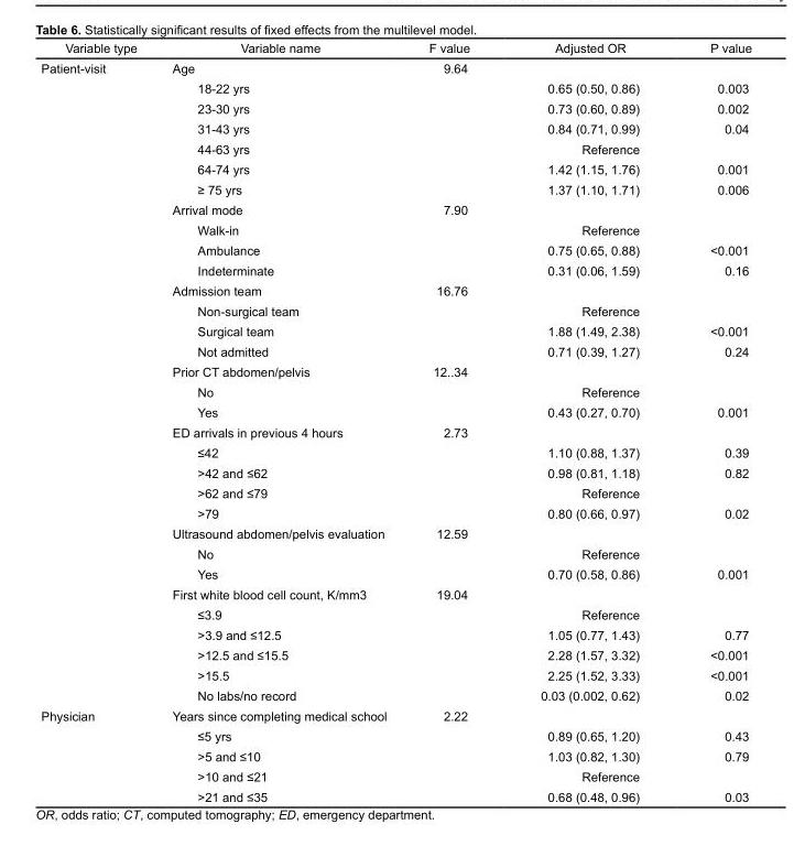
<table><thead><tr><td>Variable type</td><td>Variable name</td><td>F value</td><td>Adjusted OR</td><td>P value</td></tr></thead><tbody><tr><td rowspan="32">Patient-visit</td><td>Age</td><td>9.64</td><td></td><td></td></tr><tr><td>18-22 yrs</td><td></td><td>0.65 (0.50, 0.86)</td><td>0.003</td></tr><tr><td>23-30 yrs</td><td></td><td>0.73 (0.60, 0.89)</td><td>0.002</td></tr><tr><td>31-43 yrs</td><td></td><td>0.84 (0.71, 0.99)</td><td>0.04</td></tr><tr><td>44-63 yrs</td><td></td><td>Reference</td><td></td></tr><tr><td>64-74 yrs</td><td></td><td>1.42 (1.15, 1.76)</td><td>0.001</td></tr><tr><td>≥ 75 yrs</td><td></td><td>1.37 (1.10, 1.71)</td><td>0.006</td></tr><tr><td>Arrival mode</td><td>7.90</td><td></td><td></td></tr><tr><td>Walk-in</td><td></td><td>Reference</td><td></td></tr><tr><td>Ambulance</td><td></td><td>0.75 (0.65, 0.88)</td><td>&lt;0.001</td></tr><tr><td>Indeterminate</td><td></td><td>0.31 (0.06, 1.59)</td><td>0.16</td></tr><tr><td>Admission team</td><td>16.76</td><td></td><td></td></tr><tr><td>Non-surgical team</td><td></td><td>Reference</td><td></td></tr><tr><td>Surgical team</td><td></td><td>1.88 (1.49, 2.38)</td><td>&lt;0.001</td></tr><tr><td>Not admitted</td><td></td><td>0.71 (0.39, 1.27)</td><td>0.24</td></tr><tr><td>Prior CT abdomen/pelvis</td><td>12..34</td><td></td><td></td></tr><tr><td>No</td><td></td><td>Reference</td><td></td></tr><tr><td>Yes</td><td></td><td>0.43 (0.27, 0.70)</td><td>0.001</td></tr><tr><td>ED arrivals in previous 4 hours</td><td>2.73</td><td></td><td></td></tr><tr><td>≤42</td><td></td><td>1.10 (0.88, 1.37)</td><td>0.39</td></tr><tr><td>&gt;42 and ≤62</td><td></td><td>0.98 (0.81, 1.18)</td><td>0.82</td></tr><tr><td>&gt;62 and ≤79</td><td></td><td>Reference</td><td></td></tr><tr><td>&gt;79</td><td></td><td>0.80 (0.66, 0.97)</td><td>0.02</td></tr><tr><td>Ultrasound abdomen/pelvis evaluation</td><td>12.59</td><td></td><td></td></tr><tr><td>No</td><td></td><td>Reference</td><td></td></tr><tr><td>Yes</td><td></td><td>0.70 (0.58, 0.86)</td><td>0.001</td></tr><tr><td>First white blood cell count, K/mm3</td><td>19.04</td><td></td><td></td></tr><tr><td>≤3.9</td><td></td><td>Reference</td><td></td></tr><tr><td>&gt;3.9 and ≤12.5</td><td></td><td>1.05 (0.77, 1.43)</td><td>0.77</td></tr><tr><td>&gt;12.5 and ≤15.5</td><td></td><td>2.28 (1.57, 3.32)</td><td>&lt;0.001</td></tr><tr><td>&gt;15.5</td><td></td><td>2.25 (1.52, 3.33)</td><td>&lt;0.001</td></tr><tr><td>No labs/no record</td><td></td><td>0.03 (0.002, 0.62)</td><td>0.02</td></tr><tr><td rowspan="5">Physician</td><td>Years since completing medical school</td><td>2.22</td><td></td><td></td></tr><tr><td>≤5 yrs</td><td></td><td>0.89 (0.65, 1.20)</td><td>0.43</td></tr><tr><td>&gt;5 and ≤10</td><td></td><td>1.03 (0.82, 1.30)</td><td>0.79</td></tr><tr><td>&gt;10 and ≤21</td><td></td><td>Reference</td><td></td></tr><tr><td>&gt;21 and ≤35</td><td></td><td>0.68 (0.48, 0.96)</td><td>0.03</td></tr></tbody></table>